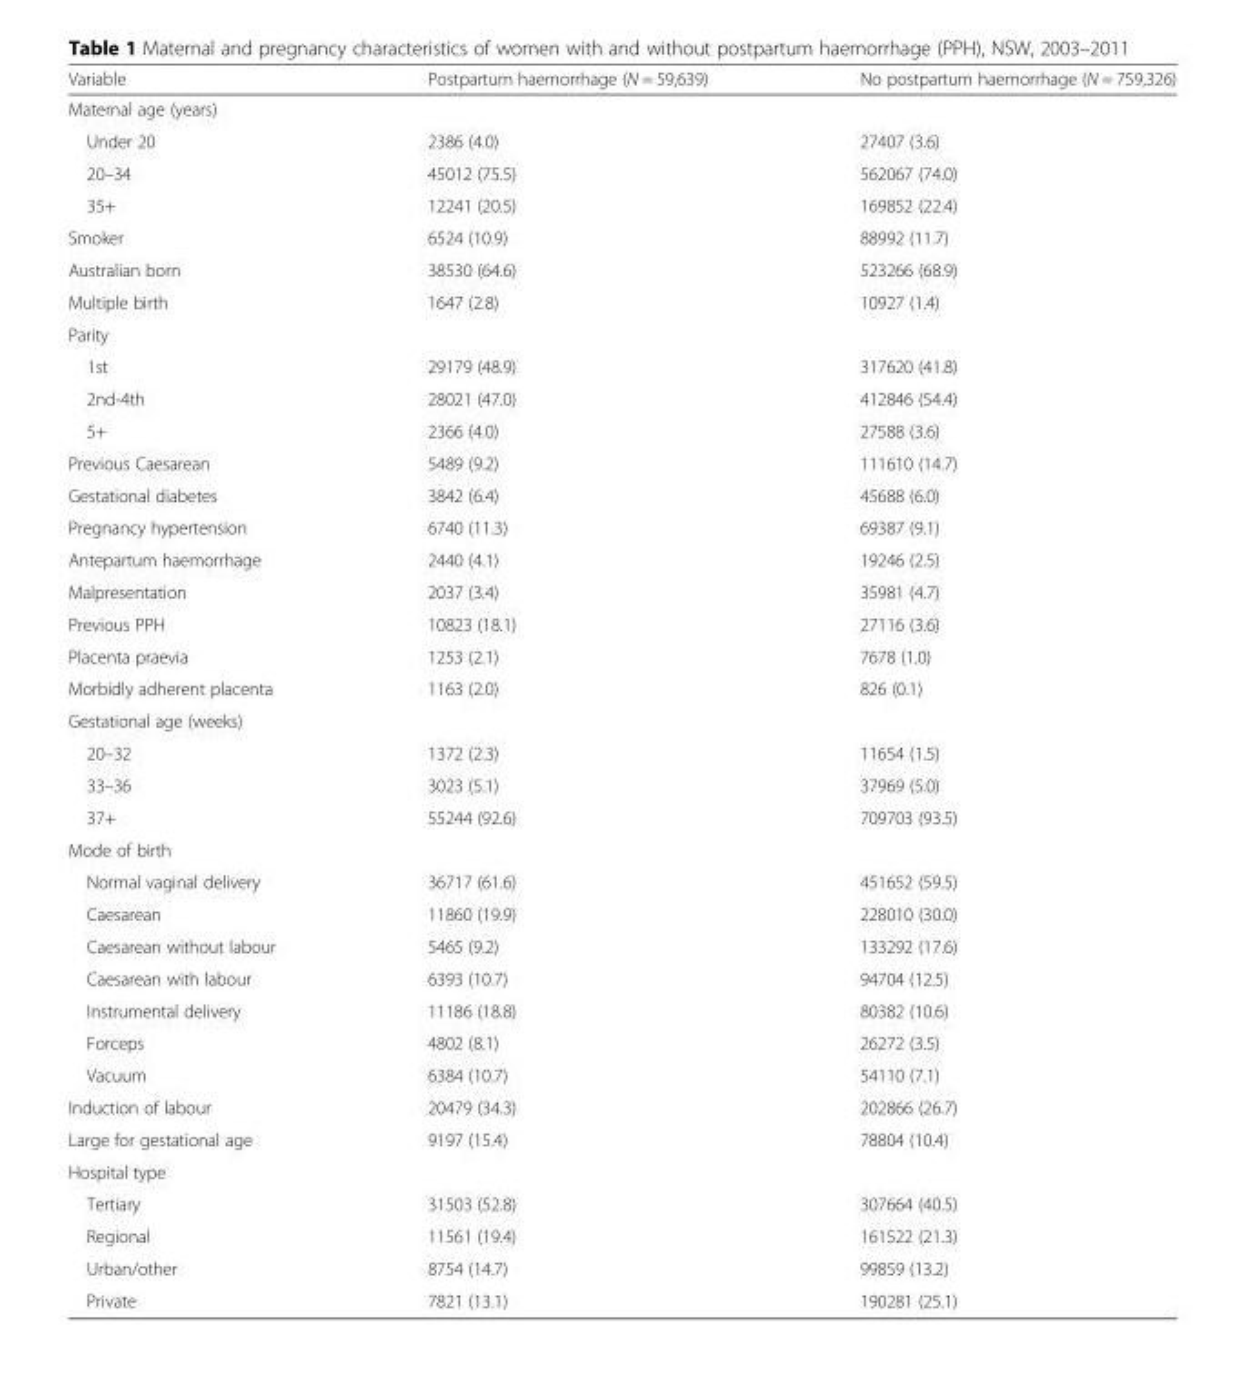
<table><thead><tr><td>Variable</td><td>Postpartum haemorrhage (N = 59,639)</td><td>No postpartum haemorrhage (N = 759,326)</td></tr></thead><tbody><tr><td colspan="3">Maternal age (years)</td></tr><tr><td>Under 20</td><td>2386 (4.0)</td><td>27407 (3.6)</td></tr><tr><td>20–34</td><td>45012 (75.5)</td><td>562067 (74.0)</td></tr><tr><td>35+</td><td>12241 (20.5)</td><td>169852 (22.4)</td></tr><tr><td>Smoker</td><td>6524 (10.9)</td><td>88992 (11.7)</td></tr><tr><td>Australian born</td><td>38530 (64.6)</td><td>523266 (68.9)</td></tr><tr><td>Multiple birth</td><td>1647 (2.8)</td><td>10927 (1.4)</td></tr><tr><td colspan="3">Parity</td></tr><tr><td>1st</td><td>29179 (48.9)</td><td>317620 (41.8)</td></tr><tr><td>2nd-4th</td><td>28021 (47.0)</td><td>412846 (54.4)</td></tr><tr><td>5+</td><td>2366 (4.0)</td><td>27588 (3.6)</td></tr><tr><td>Previous Caesarean</td><td>5489 (9.2)</td><td>111610 (14.7)</td></tr><tr><td>Gestational diabetes</td><td>3842 (6.4)</td><td>45688 (6.0)</td></tr><tr><td>Pregnancy hypertension</td><td>6740 (11.3)</td><td>69387 (9.1)</td></tr><tr><td>Antepartum haemorrhage</td><td>2440 (4.1)</td><td>19246 (2.5)</td></tr><tr><td>Malpresentation</td><td>2037 (3.4)</td><td>35981 (4.7)</td></tr><tr><td>Previous PPH</td><td>10823 (18.1)</td><td>27116 (3.6)</td></tr><tr><td>Placenta praevia</td><td>1253 (2.1)</td><td>7678 (1.0)</td></tr><tr><td>Morbidly adherent placenta</td><td>1163 (2.0)</td><td>826 (0.1)</td></tr><tr><td colspan="3">Gestational age (weeks)</td></tr><tr><td>20–32</td><td>1372 (2.3)</td><td>11654 (1.5)</td></tr><tr><td>33–36</td><td>3023 (5.1)</td><td>37969 (5.0)</td></tr><tr><td>37+</td><td>55244 (92.6)</td><td>709703 (93.5)</td></tr><tr><td colspan="3">Mode of birth</td></tr><tr><td>Normal vaginal delivery</td><td>36717 (61.6)</td><td>451652 (59.5)</td></tr><tr><td>Caesarean</td><td>11860 (19.9)</td><td>228010 (30.0)</td></tr><tr><td>Caesarean without labour</td><td>5465 (9.2)</td><td>133292 (17.6)</td></tr><tr><td>Caesarean with labour</td><td>6393 (10.7)</td><td>94704 (12.5)</td></tr><tr><td>Instrumental delivery</td><td>11186 (18.8)</td><td>80382 (10.6)</td></tr><tr><td>Forceps</td><td>4802 (8.1)</td><td>26272 (3.5)</td></tr><tr><td>Vacuum</td><td>6384 (10.7)</td><td>54110 (7.1)</td></tr><tr><td>Induction of labour</td><td>20479 (34.3)</td><td>202866 (26.7)</td></tr><tr><td>Large for gestational age</td><td>9197 (15.4)</td><td>78804 (10.4)</td></tr><tr><td colspan="3">Hospital type</td></tr><tr><td>Tertiary</td><td>31503 (52.8)</td><td>307664 (40.5)</td></tr><tr><td>Regional</td><td>11561 (19.4)</td><td>161522 (21.3)</td></tr><tr><td>Urban/other</td><td>8754 (14.7)</td><td>99859 (13.2)</td></tr><tr><td>Private</td><td>7821 (13.1)</td><td>190281 (25.1)</td></tr></tbody></table>